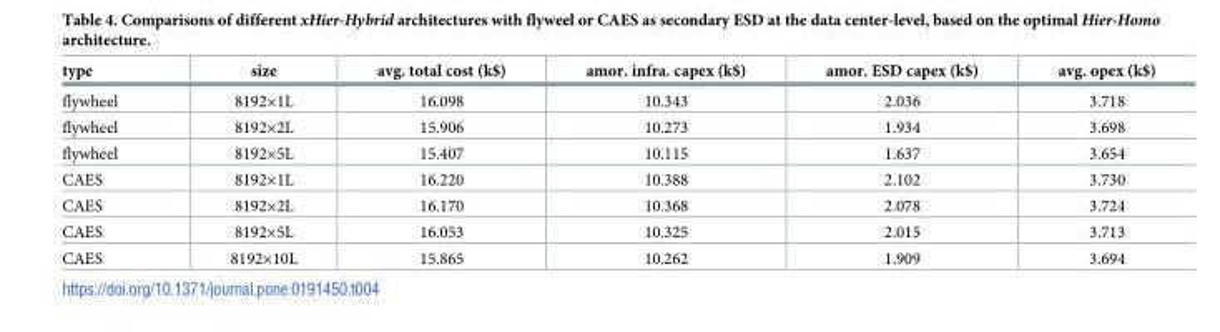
<table><thead><tr><td>type</td><td>size</td><td>avg. total cost (k$)</td><td>amor. infra. capex (k$)</td><td>amor. ESD capex (k$)</td><td>avg. opex (k$)</td></tr></thead><tbody><tr><td>flywheel</td><td>8192×1L</td><td>16.098</td><td>10.343</td><td>2.036</td><td>3.718</td></tr><tr><td>flywheel</td><td>8192×2L</td><td>15.906</td><td>10.273</td><td>1.934</td><td>3.698</td></tr><tr><td>flywheel</td><td>8192×5L</td><td>15.407</td><td>10.115</td><td>1.637</td><td>3.654</td></tr><tr><td>CAES</td><td>8192×1L</td><td>16.220</td><td>10.388</td><td>2.102</td><td>3.730</td></tr><tr><td>CAES</td><td>8192×2L</td><td>16.170</td><td>10.368</td><td>2.078</td><td>3.724</td></tr><tr><td>CAES</td><td>8192×5L</td><td>16.053</td><td>10.325</td><td>2.015</td><td>3.713</td></tr><tr><td>CAES</td><td>8192×10L</td><td>15.865</td><td>10.262</td><td>1.909</td><td>3.694</td></tr></tbody></table>